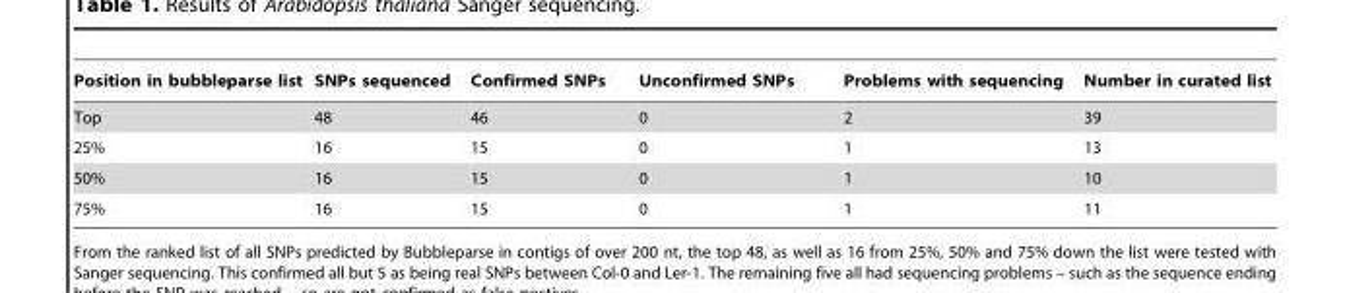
<table><thead><tr><td>Position in bubbleparse list</td><td>SNPs sequenced</td><td>Confirmed SNPs</td><td>Unconfirmed SNPs</td><td>Problems with sequencing</td><td>Number in curated list</td></tr></thead><tbody><tr><td>Top</td><td>48</td><td>46</td><td>0</td><td>2</td><td>39</td></tr><tr><td>25%</td><td>16</td><td>15</td><td>0</td><td>1</td><td>13</td></tr><tr><td>50%</td><td>16</td><td>15</td><td>0</td><td>1</td><td>10</td></tr><tr><td>75%</td><td>16</td><td>15</td><td>0</td><td>1</td><td>11</td></tr></tbody></table>